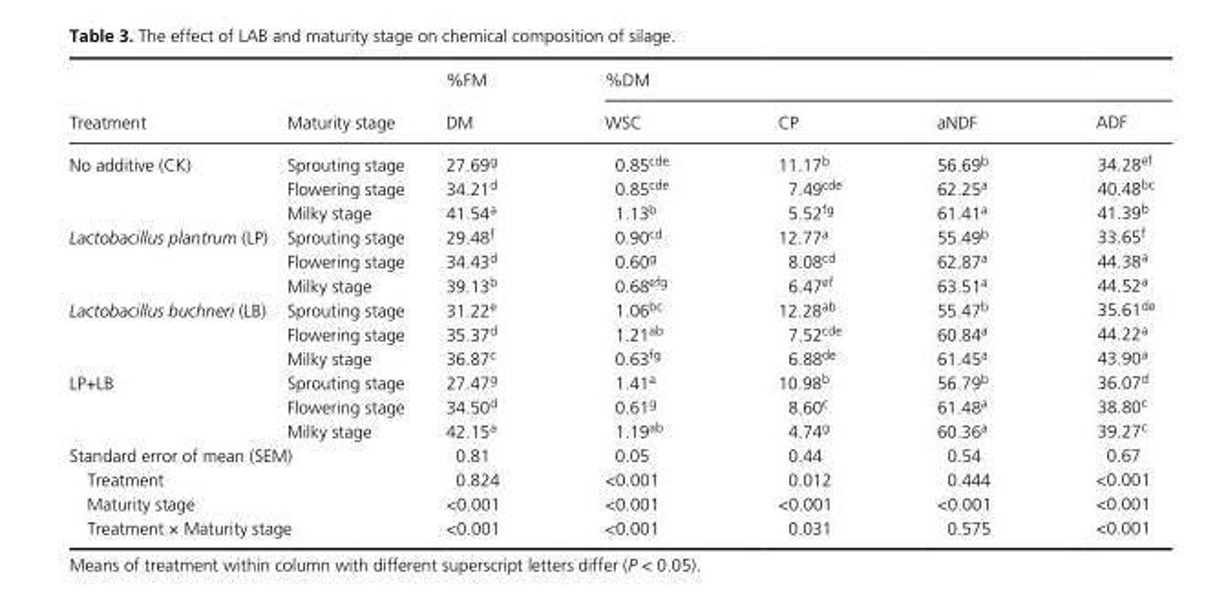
<table><thead><tr><td rowspan="2">Treatment</td><td rowspan="2">Maturity stage</td><td rowspan="2">%FM DM</td><td colspan="4">%DM</td></tr><tr><td>WSC</td><td>CP</td><td>aNDF</td><td>ADF</td></tr></thead><tbody><tr><td rowspan="3">No additive (CK)</td><td>Sprouting stage</td><td>27.69<sup>g</sup></td><td>0.85<sup>cde</sup></td><td>11.17<sup>b</sup></td><td>56.69<sup>b</sup></td><td>34.28<sup>ef</sup></td></tr><tr><td>Flowering stage</td><td>34.21<sup>d</sup></td><td>0.85<sup>cde</sup></td><td>7.49<sup>cde</sup></td><td>62.25<sup>a</sup></td><td>40.48<sup>bc</sup></td></tr><tr><td>Milky stage</td><td>41.54<sup>a</sup></td><td>1.13<sup>b</sup></td><td>5.52<sup>fg</sup></td><td>61.41<sup>a</sup></td><td>41.39<sup>b</sup></td></tr><tr><td rowspan="3">Lactobacillus plantrum (LP)</td><td>Sprouting stage</td><td>29.48<sup>f</sup></td><td>0.90<sup>cd</sup></td><td>12.77<sup>a</sup></td><td>55.49<sup>b</sup></td><td>33.65<sup>f</sup></td></tr><tr><td>Flowering stage</td><td>34.43<sup>d</sup></td><td>0.60<sup>g</sup></td><td>8.08<sup>cd</sup></td><td>62.87<sup>a</sup></td><td>44.38<sup>a</sup></td></tr><tr><td>Milky stage</td><td>39.13<sup>b</sup></td><td>0.68<sup>efg</sup></td><td>6.47<sup>ef</sup></td><td>63.51<sup>a</sup></td><td>44.52<sup>a</sup></td></tr><tr><td rowspan="3">Lactobacillus buchneri (LB)</td><td>Sprouting stage</td><td>31.22<sup>e</sup></td><td>1.06<sup>bc</sup></td><td>12.28<sup>ab</sup></td><td>55.47<sup>b</sup></td><td>35.61<sup>de</sup></td></tr><tr><td>Flowering stage</td><td>35.37<sup>d</sup></td><td>1.21<sup>ab</sup></td><td>7.52<sup>cde</sup></td><td>60.84<sup>a</sup></td><td>44.22<sup>a</sup></td></tr><tr><td>Milky stage</td><td>36.87<sup>c</sup></td><td>0.63<sup>fg</sup></td><td>6.88<sup>de</sup></td><td>61.45<sup>a</sup></td><td>43.90<sup>a</sup></td></tr><tr><td rowspan="3">LP+LB</td><td>Sprouting stage</td><td>27.47<sup>g</sup></td><td>1.41<sup>a</sup></td><td>10.98<sup>b</sup></td><td>56.79<sup>b</sup></td><td>36.07<sup>d</sup></td></tr><tr><td>Flowering stage</td><td>34.50<sup>d</sup></td><td>0.61<sup>g</sup></td><td>8.60<sup>c</sup></td><td>61.48<sup>a</sup></td><td>38.80<sup>c</sup></td></tr><tr><td>Milky stage</td><td>42.15<sup>a</sup></td><td>1.19<sup>ab</sup></td><td>4.74<sup>g</sup></td><td>60.36<sup>a</sup></td><td>39.27<sup>c</sup></td></tr><tr><td colspan="2">Standard error of mean (SEM)</td><td>0.81</td><td>0.05</td><td>0.44</td><td>0.54</td><td>0.67</td></tr><tr><td colspan="2">Treatment</td><td>0.824</td><td>&lt;0.001</td><td>0.012</td><td>0.444</td><td>&lt;0.001</td></tr><tr><td colspan="2">Maturity stage</td><td>&lt;0.001</td><td>&lt;0.001</td><td>&lt;0.001</td><td>&lt;0.001</td><td>&lt;0.001</td></tr><tr><td colspan="2">Treatment × Maturity stage</td><td>&lt;0.001</td><td>&lt;0.001</td><td>0.031</td><td>0.575</td><td>&lt;0.001</td></tr></tbody></table>